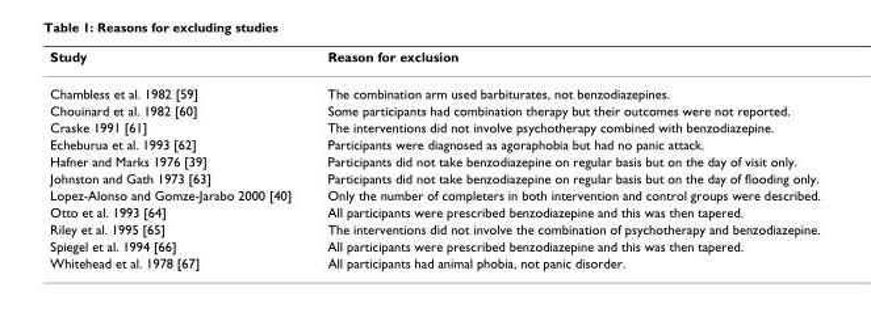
<table><thead><tr><td>Study</td><td>Reason for exclusion</td></tr></thead><tbody><tr><td>Chambless et al. 1982 [59]</td><td>The combination arm used barbiturates, not benzodiazepines.</td></tr><tr><td>Chouinard et al. 1982 [60]</td><td>Some participants had combination therapy but their outcomes were not reported.</td></tr><tr><td>Craske 1991 [61]</td><td>The interventions did not involve psychotherapy combined with benzodiazepine.</td></tr><tr><td>Echeburua et al. 1993 [62]</td><td>Participants were diagnosed as agoraphobia but had no panic attack.</td></tr><tr><td>Hafner and Marks 1976 [39]</td><td>Participants did not take benzodiazepine on regular basis but on the day of visit only.</td></tr><tr><td>Johnston and Gath 1973 [63]</td><td>Participants did not take benzodiazepine on regular basis but on the day of flooding only.</td></tr><tr><td>Lopez-Alonso and Gomze-Jarabo 2000 [40]</td><td>Only the number of completers in both intervention and control groups were described.</td></tr><tr><td>Otto et al. 1993 [64]</td><td>All participants were prescribed benzodiazepine and this was then tapered.</td></tr><tr><td>Riley et al. 1995 [65]</td><td>The interventions did not involve the combination of psychotherapy and benzodiazepine.</td></tr><tr><td>Spiegel et al. 1994 [66]</td><td>All participants were prescribed benzodiazepine and this was then tapered.</td></tr><tr><td>Whitehead et al. 1978 [67]</td><td>All participants had animal phobia, not panic disorder.</td></tr></tbody></table>